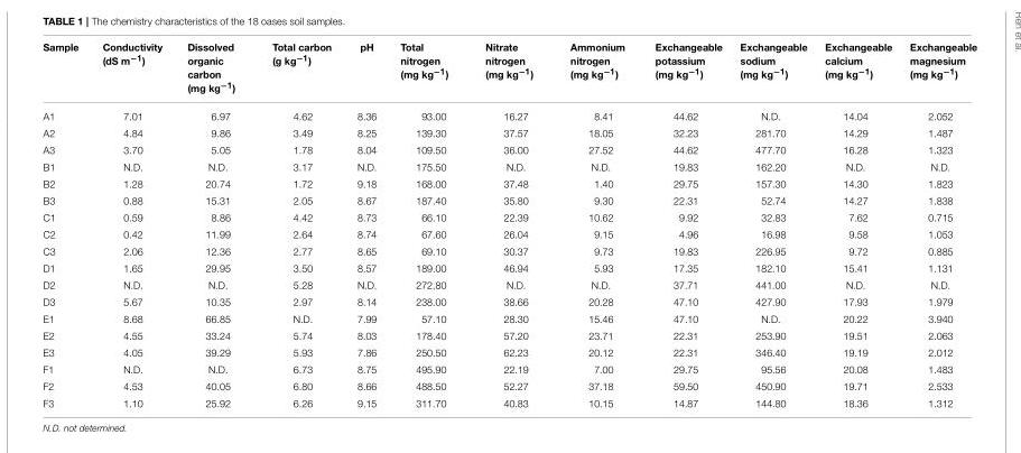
<table><thead><tr><td>Sample</td><td>Conductivity (dS m<sup>−1</sup>)</td><td>Dissolved organic carbon (mg kg<sup>−1</sup>)</td><td>Total carbon (g kg<sup>−1</sup>)</td><td>pH</td><td>Total nitrogen (mg kg<sup>−1</sup>)</td><td>Nitrate nitrogen (mg kg<sup>−1</sup>)</td><td>Ammonium nitrogen (mg kg<sup>−1</sup>)</td><td>Exchangeable potassium (mg kg<sup>−1</sup>)</td><td>Exchangeable sodium (mg kg<sup>−1</sup>)</td><td>Exchangeable calcium (mg kg<sup>−1</sup>)</td><td>Exchangeable magnesium (mg kg<sup>−1</sup>)</td></tr></thead><tbody><tr><td>A1</td><td>7.01</td><td>6.97</td><td>4.62</td><td>8.36</td><td>93.00</td><td>16.27</td><td>8.41</td><td>44.62</td><td>N.D.</td><td>14.04</td><td>2.052</td></tr><tr><td>A2</td><td>4.84</td><td>9.86</td><td>3.49</td><td>8.25</td><td>139.30</td><td>37.57</td><td>18.05</td><td>32.23</td><td>281.70</td><td>14.29</td><td>1.487</td></tr><tr><td>A3</td><td>3.70</td><td>5.05</td><td>1.78</td><td>8.04</td><td>109.50</td><td>36.00</td><td>27.52</td><td>44.62</td><td>477.70</td><td>16.28</td><td>1.323</td></tr><tr><td>B1</td><td>N.D.</td><td>N.D.</td><td>3.17</td><td>N.D.</td><td>175.50</td><td>N.D.</td><td>N.D.</td><td>19.83</td><td>162.20</td><td>N.D.</td><td>N.D.</td></tr><tr><td>B2</td><td>1.28</td><td>20.74</td><td>1.72</td><td>9.18</td><td>168.00</td><td>37.48</td><td>1.40</td><td>29.75</td><td>157.30</td><td>14.30</td><td>1.823</td></tr><tr><td>B3</td><td>0.88</td><td>15.31</td><td>2.05</td><td>8.67</td><td>187.40</td><td>35.80</td><td>9.30</td><td>22.31</td><td>52.74</td><td>14.27</td><td>1.838</td></tr><tr><td>C1</td><td>0.59</td><td>8.86</td><td>4.42</td><td>8.73</td><td>66.10</td><td>22.39</td><td>10.62</td><td>9.92</td><td>32.83</td><td>7.62</td><td>0.715</td></tr><tr><td>C2</td><td>0.42</td><td>11.99</td><td>2.64</td><td>8.74</td><td>67.60</td><td>26.04</td><td>9.15</td><td>4.96</td><td>16.98</td><td>9.58</td><td>1.053</td></tr><tr><td>C3</td><td>2.06</td><td>12.36</td><td>2.77</td><td>8.65</td><td>69.10</td><td>30.37</td><td>9.73</td><td>19.83</td><td>226.95</td><td>9.72</td><td>0.885</td></tr><tr><td>D1</td><td>1.65</td><td>29.95</td><td>3.50</td><td>8.57</td><td>189.00</td><td>46.94</td><td>5.93</td><td>17.35</td><td>182.10</td><td>15.41</td><td>1.131</td></tr><tr><td>D2</td><td>N.D.</td><td>N.D.</td><td>5.28</td><td>N.D.</td><td>272.80</td><td>N.D.</td><td>N.D.</td><td>37.71</td><td>441.00</td><td>N.D.</td><td>N.D.</td></tr><tr><td>D3</td><td>5.67</td><td>10.35</td><td>2.97</td><td>8.14</td><td>238.00</td><td>38.66</td><td>20.28</td><td>47.10</td><td>427.90</td><td>17.93</td><td>1.979</td></tr><tr><td>E1</td><td>8.68</td><td>66.85</td><td>N.D.</td><td>7.99</td><td>57.10</td><td>28.30</td><td>15.46</td><td>47.10</td><td>N.D.</td><td>20.22</td><td>3.940</td></tr><tr><td>E2</td><td>4.55</td><td>33.24</td><td>5.74</td><td>8.03</td><td>178.40</td><td>57.20</td><td>23.71</td><td>22.31</td><td>253.90</td><td>19.51</td><td>2.063</td></tr><tr><td>E3</td><td>4.05</td><td>39.29</td><td>5.93</td><td>7.86</td><td>250.50</td><td>62.23</td><td>20.12</td><td>22.31</td><td>346.40</td><td>19.19</td><td>2.012</td></tr><tr><td>F1</td><td>N.D.</td><td>N.D.</td><td>6.73</td><td>8.75</td><td>495.90</td><td>22.19</td><td>7.00</td><td>29.75</td><td>95.56</td><td>20.08</td><td>1.483</td></tr><tr><td>F2</td><td>4.53</td><td>40.05</td><td>6.80</td><td>8.66</td><td>488.50</td><td>52.27</td><td>37.18</td><td>59.50</td><td>450.90</td><td>19.71</td><td>2.533</td></tr><tr><td>F3</td><td>1.10</td><td>25.92</td><td>6.26</td><td>9.15</td><td>311.70</td><td>40.83</td><td>10.15</td><td>14.87</td><td>144.80</td><td>18.36</td><td>1.312</td></tr></tbody></table>